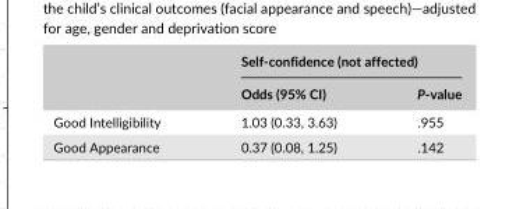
<table><thead><tr><td rowspan="2"></td><td colspan="2">Self- confidence (not affected)</td></tr><tr><td>Odds (95% CI)</td><td>P- value</td></tr></thead><tbody><tr><td>Good Intelligibility</td><td>1.03 (0.33, 3.63)</td><td>.955</td></tr><tr><td>Good Appearance</td><td>0.37 (0.08, 1.25)</td><td>.142</td></tr></tbody></table>